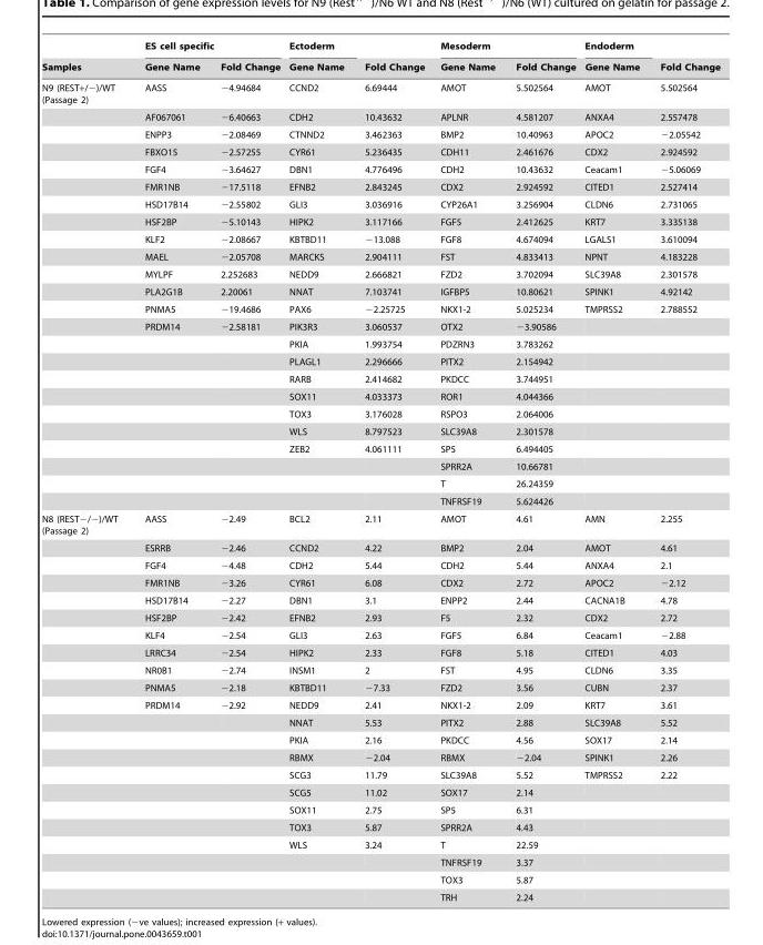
<table><thead><tr><td rowspan="2">Samples</td><td colspan="2">ES cell specific</td><td rowspan="2">Ectoderm Gene Name</td><td rowspan="2">Fold Change</td><td colspan="2">Mesoderm</td><td rowspan="2">Endoderm Gene Name</td><td rowspan="2">Fold Change</td></tr><tr><td>Gene Name</td><td>Fold Change</td><td>Gene Name</td><td>Fold Change</td></tr></thead><tbody><tr><td rowspan="24">N9 (REST+/−)/WT (Passage 2)</td><td>AASS</td><td>−4.94684</td><td>CCND2</td><td>6.69444</td><td>AMOT</td><td>5.502564</td><td>AMOT</td><td>5.502564</td></tr><tr><td>AF067061</td><td>−6.40663</td><td>CDH2</td><td>10.43632</td><td>APLNR</td><td>4.581207</td><td>ANXA4</td><td>2.557478</td></tr><tr><td>ENPP3</td><td>−2.08469</td><td>CTNND2</td><td>3.462363</td><td>BMP2</td><td>10.40963</td><td>APOC2</td><td>−2.05542</td></tr><tr><td>FBXO15</td><td>−2.57255</td><td>CYR61</td><td>5.236435</td><td>CDH11</td><td>2.461676</td><td>CDX2</td><td>2.924592</td></tr><tr><td>FGF4</td><td>−3.64627</td><td>DBN1</td><td>4.776496</td><td>CDH2</td><td>10.43632</td><td>Ceacam1</td><td>−5.06069</td></tr><tr><td>FMR1NB</td><td>−17.5118</td><td>EFNB2</td><td>2.843245</td><td>CDX2</td><td>2.924592</td><td>CITED1</td><td>2.527414</td></tr><tr><td>HSD17B14</td><td>−2.55802</td><td>GLI3</td><td>3.036916</td><td>CYP26A1</td><td>3.256904</td><td>CLDN6</td><td>2.731065</td></tr><tr><td>HSF2BP</td><td>−5.10143</td><td>HIPK2</td><td>3.117166</td><td>FGF5</td><td>2.412625</td><td>KRT7</td><td>3.335138</td></tr><tr><td>KLF2</td><td>−2.08667</td><td>KBTBD11</td><td>−13.088</td><td>FGF8</td><td>4.674094</td><td>LGALS1</td><td>3.610094</td></tr><tr><td>MAEL</td><td>−2.05708</td><td>MARCKS</td><td>2.904111</td><td>FST</td><td>4.833413</td><td>NPNT</td><td>4.183228</td></tr><tr><td>MYLPF</td><td>2.252683</td><td>NEDD9</td><td>2.666821</td><td>FZD2</td><td>3.702094</td><td>SLC39A8</td><td>2.301578</td></tr><tr><td>PLA2G1B</td><td>2.20061</td><td>NNAT</td><td>7.103741</td><td>IGFBP5</td><td>10.80621</td><td>SPINK1</td><td>4.92142</td></tr><tr><td>PNMA5</td><td>−19.4686</td><td>PAX6</td><td>−2.25725</td><td>NKX1-2</td><td>5.025234</td><td>TMPRSS2</td><td>2.788552</td></tr><tr><td>PRDM14</td><td>−2.58181</td><td>PIK3R3</td><td>3.060537</td><td>OTX2</td><td>−3.90586</td><td></td><td></td></tr><tr><td></td><td></td><td>PKIA</td><td>1.993754</td><td>PDZRN3</td><td>3.783262</td><td></td><td></td></tr><tr><td></td><td></td><td>PLAGL1</td><td>2.296666</td><td>PITX2</td><td>2.154942</td><td></td><td></td></tr><tr><td></td><td></td><td>RARB</td><td>2.414682</td><td>PKDCC</td><td>3.744951</td><td></td><td></td></tr><tr><td></td><td></td><td>SOX11</td><td>4.033373</td><td>ROR1</td><td>4.044366</td><td></td><td></td></tr><tr><td></td><td></td><td>TOX3</td><td>3.176028</td><td>RSPO3</td><td>2.064006</td><td></td><td></td></tr><tr><td></td><td></td><td>WLS</td><td>8.797523</td><td>SLC39A8</td><td>2.301578</td><td></td><td></td></tr><tr><td></td><td></td><td>ZEB2</td><td>4.061111</td><td>SP5</td><td>6.494405</td><td></td><td></td></tr><tr><td></td><td></td><td></td><td></td><td>SPRR2A</td><td>10.66781</td><td></td><td></td></tr><tr><td></td><td></td><td></td><td></td><td>T</td><td>26.24359</td><td></td><td></td></tr><tr><td></td><td></td><td></td><td></td><td>TNFRSF19</td><td>5.624426</td><td></td><td></td></tr><tr><td rowspan="22">N8 (REST−/−)/WT (Passage 2)</td><td>AASS</td><td>−2.49</td><td>BCL2</td><td>2.11</td><td>AMOT</td><td>4.61</td><td>AMN</td><td>2.255</td></tr><tr><td>ESRRB</td><td>−2.46</td><td>CCND2</td><td>4.22</td><td>BMP2</td><td>2.04</td><td>AMOT</td><td>4.61</td></tr><tr><td>FGF4</td><td>−4.48</td><td>CDH2</td><td>5.44</td><td>CDH2</td><td>5.44</td><td>ANXA4</td><td>2.1</td></tr><tr><td>FMR1NB</td><td>−3.26</td><td>CYR61</td><td>6.08</td><td>CDX2</td><td>2.72</td><td>APOC2</td><td>−2.12</td></tr><tr><td>HSD17B14</td><td>−2.27</td><td>DBN1</td><td>3.1</td><td>ENPP2</td><td>2.44</td><td>CACNA1B</td><td>4.78</td></tr><tr><td>HSF2BP</td><td>−2.42</td><td>EFNB2</td><td>2.93</td><td>F5</td><td>2.32</td><td>CDX2</td><td>2.72</td></tr><tr><td>KLF4</td><td>−2.54</td><td>GLI3</td><td>2.63</td><td>FGF5</td><td>6.84</td><td>Ceacam1</td><td>−2.88</td></tr><tr><td>LRRC34</td><td>−2.54</td><td>HIPK2</td><td>2.33</td><td>FGF8</td><td>5.18</td><td>CITED1</td><td>4.03</td></tr><tr><td>NR0B1</td><td>−2.74</td><td>INSM1</td><td>2</td><td>FST</td><td>4.95</td><td>CLDN6</td><td>3.35</td></tr><tr><td>PNMA5</td><td>−2.18</td><td>KBTBD11</td><td>−7.33</td><td>FZD2</td><td>3.56</td><td>CUBN</td><td>2.37</td></tr><tr><td>PRDM14</td><td>−2.92</td><td>NEDD9</td><td>2.41</td><td>NKX1-2</td><td>2.09</td><td>KRT7</td><td>3.61</td></tr><tr><td></td><td></td><td>NNAT</td><td>5.53</td><td>PITX2</td><td>2.88</td><td>SLC39A8</td><td>5.52</td></tr><tr><td></td><td></td><td>PKIA</td><td>2.16</td><td>PKDCC</td><td>4.56</td><td>SOX17</td><td>2.14</td></tr><tr><td></td><td></td><td>RBMX</td><td>−2.04</td><td>RBMX</td><td>−2.04</td><td>SPINK1</td><td>2.26</td></tr><tr><td></td><td></td><td>SCG3</td><td>11.79</td><td>SLC39A8</td><td>5.52</td><td>TMPRSS2</td><td>2.22</td></tr><tr><td></td><td></td><td>SCG5</td><td>11.02</td><td>SOX17</td><td>2.14</td><td></td><td></td></tr><tr><td></td><td></td><td>SOX11</td><td>2.75</td><td>SP5</td><td>6.31</td><td></td><td></td></tr><tr><td></td><td></td><td>TOX3</td><td>5.87</td><td>SPRR2A</td><td>4.43</td><td></td><td></td></tr><tr><td></td><td></td><td>WLS</td><td>3.24</td><td>T</td><td>22.59</td><td></td><td></td></tr><tr><td></td><td></td><td></td><td></td><td>TNFRSF19</td><td>3.37</td><td></td><td></td></tr><tr><td></td><td></td><td></td><td></td><td>TOX3</td><td>5.87</td><td></td><td></td></tr><tr><td></td><td></td><td></td><td></td><td>TRH</td><td>2.24</td><td></td><td></td></tr></tbody></table>